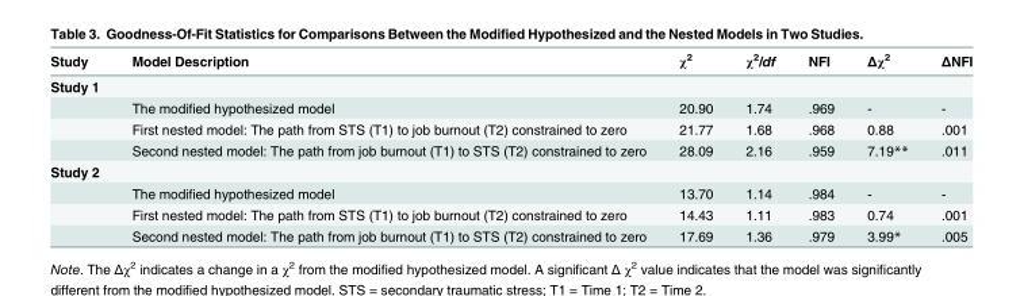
<table><thead><tr><td>Study</td><td>Model Description</td><td>χ<sup>2</sup></td><td>χ<sup>2</sup>/df</td><td>NFI</td><td>Δχ<sup>2</sup></td><td>ΔNFI</td></tr></thead><tbody><tr><td colspan="7">Study 1</td></tr><tr><td></td><td>The modified hypothesized model</td><td>20.90</td><td>1.74</td><td>.969</td><td>-</td><td>-</td></tr><tr><td></td><td>First nested model: The path from STS (T1) to job burnout (T2) constrained to zero</td><td>21.77</td><td>1.68</td><td>.968</td><td>0.88</td><td>.001</td></tr><tr><td></td><td>Second nested model: The path from job burnout (T1) to STS (T2) constrained to zero</td><td>28.09</td><td>2.16</td><td>.959</td><td>7.19**</td><td>.011</td></tr><tr><td colspan="7">Study 2</td></tr><tr><td></td><td>The modified hypothesized model</td><td>13.70</td><td>1.14</td><td>.984</td><td>-</td><td>-</td></tr><tr><td></td><td>First nested model: The path from STS (T1) to job burnout (T2) constrained to zero</td><td>14.43</td><td>1.11</td><td>.983</td><td>0.74</td><td>.001</td></tr><tr><td></td><td>Second nested model: The path from job burnout (T1) to STS (T2) constrained to zero</td><td>17.69</td><td>1.36</td><td>.979</td><td>3.99*</td><td>.005</td></tr></tbody></table>